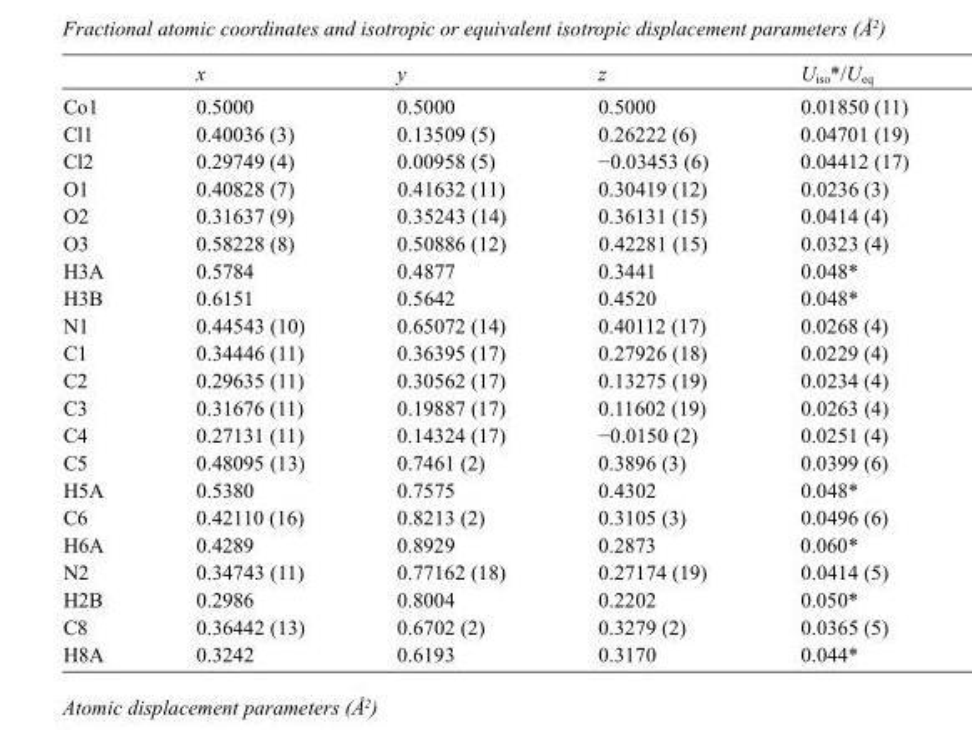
<table><thead><tr><td></td><td>x</td><td>y</td><td>z</td><td>U<sub>iso</sub>*/U<sub>eq</sub></td></tr></thead><tbody><tr><td>Co1</td><td>0.5000</td><td>0.5000</td><td>0.5000</td><td>0.01850 (11)</td></tr><tr><td>Cl1</td><td>0.40036 (3)</td><td>0.13509 (5)</td><td>0.26222 (6)</td><td>0.04701 (19)</td></tr><tr><td>Cl2</td><td>0.29749 (4)</td><td>0.00958 (5)</td><td>−0.03453 (6)</td><td>0.04412 (17)</td></tr><tr><td>O1</td><td>0.40828 (7)</td><td>0.41632 (11)</td><td>0.30419 (12)</td><td>0.0236 (3)</td></tr><tr><td>O2</td><td>0.31637 (9)</td><td>0.35243 (14)</td><td>0.36131 (15)</td><td>0.0414 (4)</td></tr><tr><td>O3</td><td>0.58228 (8)</td><td>0.50886 (12)</td><td>0.42281 (15)</td><td>0.0323 (4)</td></tr><tr><td>H3A</td><td>0.5784</td><td>0.4877</td><td>0.3441</td><td>0.048*</td></tr><tr><td>H3B</td><td>0.6151</td><td>0.5642</td><td>0.4520</td><td>0.048*</td></tr><tr><td>N1</td><td>0.44543 (10)</td><td>0.65072 (14)</td><td>0.40112 (17)</td><td>0.0268 (4)</td></tr><tr><td>C1</td><td>0.34446 (11)</td><td>0.36395 (17)</td><td>0.27926 (18)</td><td>0.0229 (4)</td></tr><tr><td>C2</td><td>0.29635 (11)</td><td>0.30562 (17)</td><td>0.13275 (19)</td><td>0.0234 (4)</td></tr><tr><td>C3</td><td>0.31676 (11)</td><td>0.19887 (17)</td><td>0.11602 (19)</td><td>0.0263 (4)</td></tr><tr><td>C4</td><td>0.27131 (11)</td><td>0.14324 (17)</td><td>−0.0150 (2)</td><td>0.0251 (4)</td></tr><tr><td>C5</td><td>0.48095 (13)</td><td>0.7461 (2)</td><td>0.3896 (3)</td><td>0.0399 (6)</td></tr><tr><td>H5A</td><td>0.5380</td><td>0.7575</td><td>0.4302</td><td>0.048*</td></tr><tr><td>C6</td><td>0.42110 (16)</td><td>0.8213 (2)</td><td>0.3105 (3)</td><td>0.0496 (6)</td></tr><tr><td>H6A</td><td>0.4289</td><td>0.8929</td><td>0.2873</td><td>0.060*</td></tr><tr><td>N2</td><td>0.34743 (11)</td><td>0.77162 (18)</td><td>0.27174 (19)</td><td>0.0414 (5)</td></tr><tr><td>H2B</td><td>0.2986</td><td>0.8004</td><td>0.2202</td><td>0.050*</td></tr><tr><td>C8</td><td>0.36442 (13)</td><td>0.6702 (2)</td><td>0.3279 (2)</td><td>0.0365 (5)</td></tr><tr><td>H8A</td><td>0.3242</td><td>0.6193</td><td>0.3170</td><td>0.044*</td></tr></tbody></table>